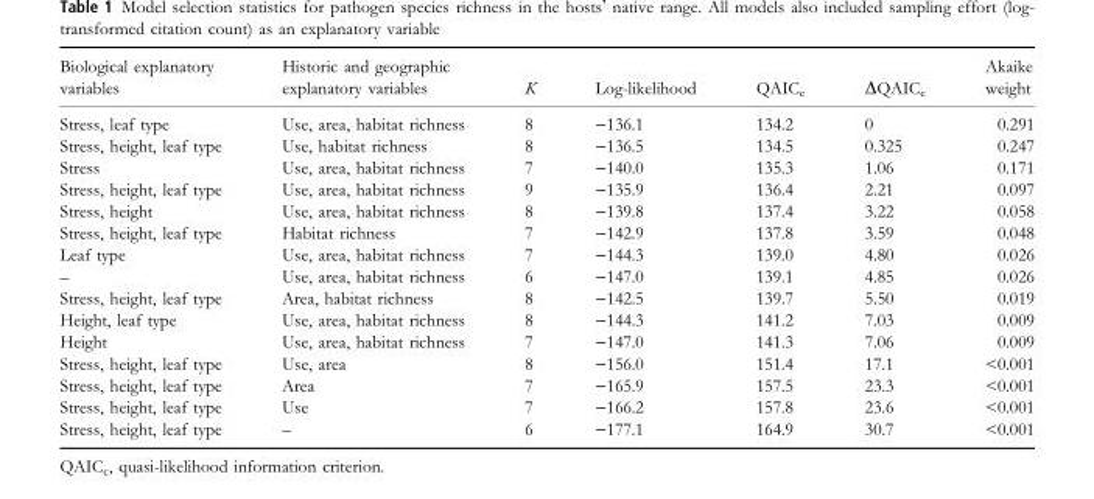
<table><thead><tr><td>Biological explanatory variables</td><td>Historic and geographic explanatory variables</td><td>K</td><td>Log-likelihood</td><td>QAIC<sub>c</sub></td><td>ΔQAIC<sub>c</sub></td><td>Akaike weight</td></tr></thead><tbody><tr><td>Stress, leaf type</td><td>Use, area, habitat richness</td><td>8</td><td>−136.1</td><td>134.2</td><td>0</td><td>0.291</td></tr><tr><td>Stress, height, leaf type</td><td>Use, habitat richness</td><td>8</td><td>−136.5</td><td>134.5</td><td>0.325</td><td>0.247</td></tr><tr><td>Stress</td><td>Use, area, habitat richness</td><td>7</td><td>−140.0</td><td>135.3</td><td>1.06</td><td>0.171</td></tr><tr><td>Stress, height, leaf type</td><td>Use, area, habitat richness</td><td>9</td><td>−135.9</td><td>136.4</td><td>2.21</td><td>0.097</td></tr><tr><td>Stress, height</td><td>Use, area, habitat richness</td><td>8</td><td>−139.8</td><td>137.4</td><td>3.22</td><td>0.058</td></tr><tr><td>Stress, height, leaf type</td><td>Habitat richness</td><td>7</td><td>−142.9</td><td>137.8</td><td>3.59</td><td>0.048</td></tr><tr><td>Leaf type</td><td>Use, area, habitat richness</td><td>7</td><td>−144.3</td><td>139.0</td><td>4.80</td><td>0.026</td></tr><tr><td>–</td><td>Use, area, habitat richness</td><td>6</td><td>−147.0</td><td>139.1</td><td>4.85</td><td>0.026</td></tr><tr><td>Stress, height, leaf type</td><td>Area, habitat richness</td><td>8</td><td>−142.5</td><td>139.7</td><td>5.50</td><td>0.019</td></tr><tr><td>Height, leaf type</td><td>Use, area, habitat richness</td><td>8</td><td>−144.3</td><td>141.2</td><td>7.03</td><td>0.009</td></tr><tr><td>Height</td><td>Use, area, habitat richness</td><td>7</td><td>−147.0</td><td>141.3</td><td>7.06</td><td>0.009</td></tr><tr><td>Stress, height, leaf type</td><td>Use, area</td><td>8</td><td>−156.0</td><td>151.4</td><td>17.1</td><td>&lt;0.001</td></tr><tr><td>Stress, height, leaf type</td><td>Area</td><td>7</td><td>−165.9</td><td>157.5</td><td>23.3</td><td>&lt;0.001</td></tr><tr><td>Stress, height, leaf type</td><td>Use</td><td>7</td><td>−166.2</td><td>157.8</td><td>23.6</td><td>&lt;0.001</td></tr><tr><td>Stress, height, leaf type</td><td>–</td><td>6</td><td>−177.1</td><td>164.9</td><td>30.7</td><td>&lt;0.001</td></tr></tbody></table>